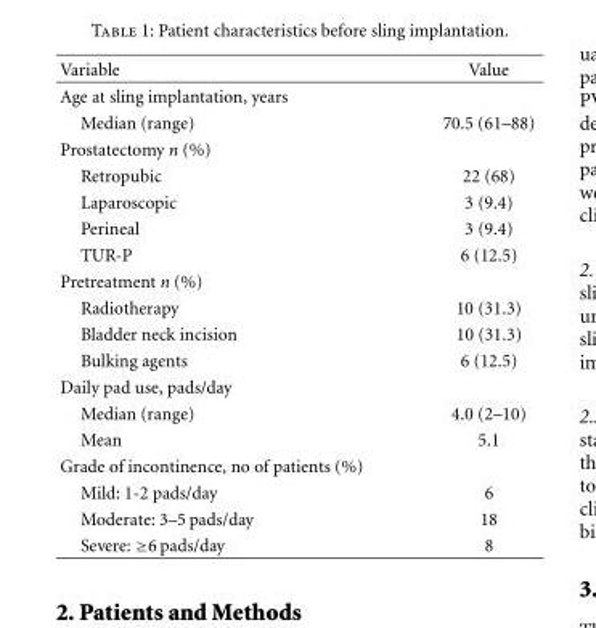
<table><thead><tr><td>Variable</td><td>Value</td></tr></thead><tbody><tr><td colspan="2">Age at sling implantation, years</td></tr><tr><td>Median (range)</td><td>70.5 (61–88)</td></tr><tr><td colspan="2">Prostatectomy n (%)</td></tr><tr><td>Retropubic</td><td>22 (68)</td></tr><tr><td>Laparoscopic</td><td>3 (9.4)</td></tr><tr><td>Perineal</td><td>3 (9.4)</td></tr><tr><td>TUR-P</td><td>6 (12.5)</td></tr><tr><td colspan="2">Pretreatment n (%)</td></tr><tr><td>Radiotherapy</td><td>10 (31.3)</td></tr><tr><td>Bladder neck incision</td><td>10 (31.3)</td></tr><tr><td>Bulking agents</td><td>6 (12.5)</td></tr><tr><td colspan="2">Daily pad use, pads/day</td></tr><tr><td>Median (range)</td><td>4.0 (2–10)</td></tr><tr><td>Mean</td><td>5.1</td></tr><tr><td colspan="2">Grade of incontinence, no of patients (%)</td></tr><tr><td>Mild: 1-2 pads/day</td><td>6</td></tr><tr><td>Moderate: 3–5 pads/day</td><td>18</td></tr><tr><td>Severe: ≥6 pads/day</td><td>8</td></tr></tbody></table>